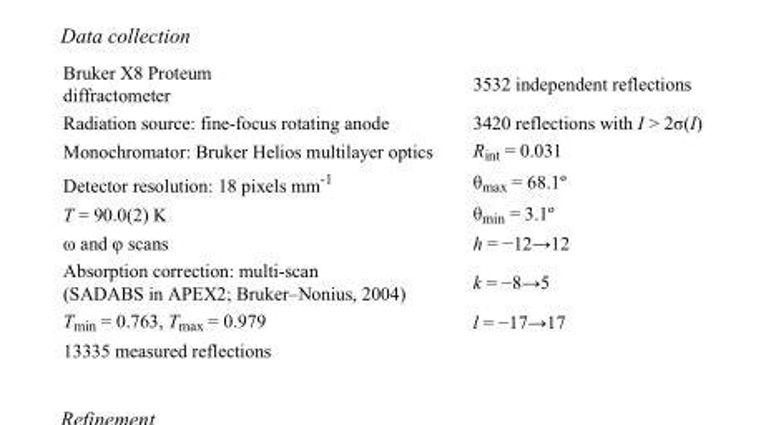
<table><tbody><tr><td>Bruker X8 Proteum diffractometer</td><td>3532 independent reflections</td></tr><tr><td>Radiation source: fine-focus rotating anode</td><td>3420 reflections with I &gt; 2σ(I)</td></tr><tr><td>Monochromator: Bruker Helios multilayer optics</td><td>R<sub>int</sub> = 0.031</td></tr><tr><td>Detector resolution: 18 pixels mm<sup>-1</sup></td><td>θ<sub>max</sub> = 68.1º</td></tr><tr><td>T = 90.0(2) K</td><td>θ<sub>min</sub> = 3.1º</td></tr><tr><td>ω and φ scans</td><td>h = −12→12</td></tr><tr><td>Absorption correction: multi-scan (SADABS in APEX2; Bruker–Nonius, 2004)</td><td>k = −8→5</td></tr><tr><td>T<sub>min</sub> = 0.763, T<sub>max</sub> = 0.979</td><td>l = −17→17</td></tr><tr><td>13335 measured reflections</td><td></td></tr></tbody></table>